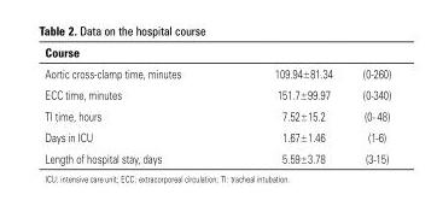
<table><thead><tr><td>Course</td><td></td><td></td></tr></thead><tbody><tr><td>Aortic cross-clamp time, minutes</td><td>109.94±81.34</td><td>(0-260)</td></tr><tr><td>ECC time, minutes</td><td>151.7±99.97</td><td>(0-340)</td></tr><tr><td>TI time, hours</td><td>7.52±15.2</td><td>(0- 48)</td></tr><tr><td>Days in ICU</td><td>1.67±1.46</td><td>(1-6)</td></tr><tr><td>Length of hospital stay, days</td><td>5.59±3.78</td><td>(3-15)</td></tr></tbody></table>